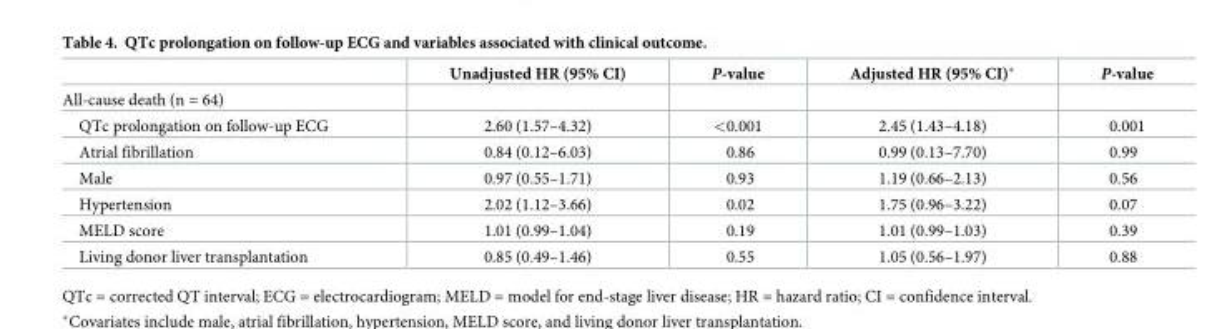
<table><thead><tr><td></td><td>Unadjusted HR (95% CI)</td><td>P-value</td><td>Adjusted HR (95% CI)*</td><td>P-value</td></tr></thead><tbody><tr><td colspan="5">All-cause death (n = 64)</td></tr><tr><td>QTc prolongation on follow-up ECG</td><td>2.60 (1.57–4.32)</td><td>&lt;0.001</td><td>2.45 (1.43–4.18)</td><td>0.001</td></tr><tr><td>Atrial fibrillation</td><td>0.84 (0.12–6.03)</td><td>0.86</td><td>0.99 (0.13–7.70)</td><td>0.99</td></tr><tr><td>Male</td><td>0.97 (0.55–1.71)</td><td>0.93</td><td>1.19 (0.66–2.13)</td><td>0.56</td></tr><tr><td>Hypertension</td><td>2.02 (1.12–3.66)</td><td>0.02</td><td>1.75 (0.96–3.22)</td><td>0.07</td></tr><tr><td>MELD score</td><td>1.01 (0.99–1.04)</td><td>0.19</td><td>1.01 (0.99–1.03)</td><td>0.39</td></tr><tr><td>Living donor liver transplantation</td><td>0.85 (0.49–1.46)</td><td>0.55</td><td>1.05 (0.56–1.97)</td><td>0.88</td></tr></tbody></table>